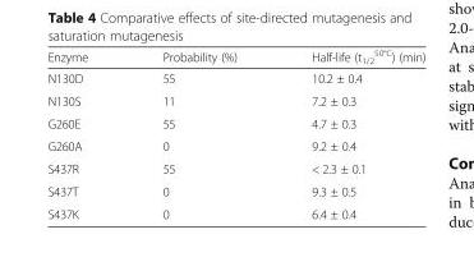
<table><thead><tr><td>Enzyme</td><td>Probability (%)</td><td>Half-life (t<sub>1/2</sub> <sup>50°C</sup>) (min)</td></tr></thead><tbody><tr><td>N130D</td><td>55</td><td>10.2 ± 0.4</td></tr><tr><td>N130S</td><td>11</td><td>7.2 ± 0.3</td></tr><tr><td>G260E</td><td>55</td><td>4.7 ± 0.3</td></tr><tr><td>G260A</td><td>0</td><td>9.2 ± 0.4</td></tr><tr><td>S437R</td><td>55</td><td>&lt; 2.3 ± 0.1</td></tr><tr><td>S437T</td><td>0</td><td>9.3 ± 0.5</td></tr><tr><td>S437K</td><td>0</td><td>6.4 ± 0.4</td></tr></tbody></table>